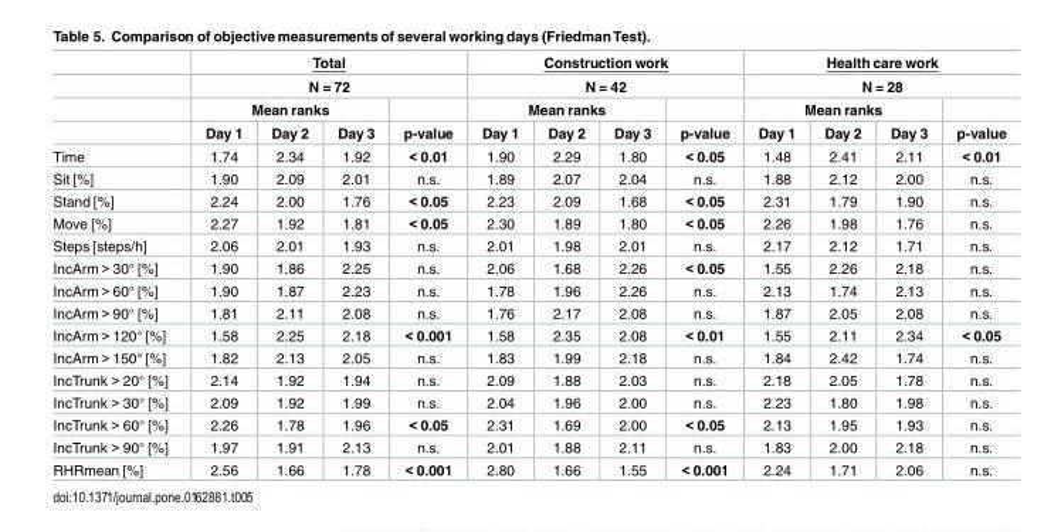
<table><thead><tr><td rowspan="4"></td><td rowspan="2" colspan="4">Total N = 72</td><td rowspan="2" colspan="4">Construction work N = 42</td><td rowspan="2" colspan="4">Health care work N = 28</td></tr><tr></tr><tr><td colspan="3">Mean ranks</td><td rowspan="2">p-value</td><td colspan="3">Mean ranks</td><td rowspan="2">p-value</td><td colspan="3">Mean ranks</td><td rowspan="2">p-value</td></tr><tr><td>Day 1</td><td>Day 2</td><td>Day 3</td><td>Day 1</td><td>Day 2</td><td>Day 3</td><td>Day 1</td><td>Day 2</td><td>Day 3</td></tr></thead><tbody><tr><td>Time</td><td>1.74</td><td>2.34</td><td>1.92</td><td>&lt; 0.01</td><td>1.90</td><td>2.29</td><td>1.80</td><td>&lt; 0.05</td><td>1.48</td><td>2.41</td><td>2.11</td><td>&lt; 0.01</td></tr><tr><td>Sit [%]</td><td>1.90</td><td>2.09</td><td>2.01</td><td>n.s.</td><td>1.89</td><td>2.07</td><td>2.04</td><td>n.s.</td><td>1.88</td><td>2.12</td><td>2.00</td><td>n.s.</td></tr><tr><td>Stand [%]</td><td>2.24</td><td>2.00</td><td>1.76</td><td>&lt; 0.05</td><td>2.23</td><td>2.09</td><td>1.68</td><td>&lt; 0.05</td><td>2.31</td><td>1.79</td><td>1.90</td><td>n.s.</td></tr><tr><td>Move [%]</td><td>2.27</td><td>1.92</td><td>1.81</td><td>&lt; 0.05</td><td>2.30</td><td>1.89</td><td>1.80</td><td>&lt; 0.05</td><td>2.26</td><td>1.98</td><td>1.76</td><td>n.s.</td></tr><tr><td>Steps [steps/h]</td><td>2.06</td><td>2.01</td><td>1.93</td><td>n.s.</td><td>2.01</td><td>1.98</td><td>2.01</td><td>n.s.</td><td>2.17</td><td>2.12</td><td>1.71</td><td>n.s.</td></tr><tr><td>IncArm &gt; 30° [%]</td><td>1.90</td><td>1.86</td><td>2.25</td><td>n.s.</td><td>2.06</td><td>1.68</td><td>2.26</td><td>&lt; 0.05</td><td>1.55</td><td>2.26</td><td>2.18</td><td>n.s.</td></tr><tr><td>IncArm &gt; 60° [%]</td><td>1.90</td><td>1.87</td><td>2.23</td><td>n.s.</td><td>1.78</td><td>1.96</td><td>2.26</td><td>n.s.</td><td>2.13</td><td>1.74</td><td>2.13</td><td>n.s.</td></tr><tr><td>IncArm &gt; 90° [%]</td><td>1.81</td><td>2.11</td><td>2.08</td><td>n.s.</td><td>1.76</td><td>2.17</td><td>2.08</td><td>n.s.</td><td>1.87</td><td>2.05</td><td>2.08</td><td>n.s.</td></tr><tr><td>IncArm &gt; 120° [%]</td><td>1.58</td><td>2.25</td><td>2.18</td><td>&lt; 0.001</td><td>1.58</td><td>2.35</td><td>2.08</td><td>&lt; 0.01</td><td>1.55</td><td>2.11</td><td>2.34</td><td>&lt; 0.05</td></tr><tr><td>IncArm &gt; 150° [%]</td><td>1.82</td><td>2.13</td><td>2.05</td><td>n.s.</td><td>1.83</td><td>1.99</td><td>2.18</td><td>n.s.</td><td>1.84</td><td>2.42</td><td>1.74</td><td>n.s.</td></tr><tr><td>IncTrunk &gt; 20° [%]</td><td>2.14</td><td>1.92</td><td>1.94</td><td>n.s.</td><td>2.09</td><td>1.88</td><td>2.03</td><td>n.s.</td><td>2.18</td><td>2.05</td><td>1.78</td><td>n.s.</td></tr><tr><td>IncTrunk &gt; 30° [%]</td><td>2.09</td><td>1.92</td><td>1.99</td><td>n.s.</td><td>2.04</td><td>1.96</td><td>2.00</td><td>n.s.</td><td>2.23</td><td>1.80</td><td>1.98</td><td>n.s.</td></tr><tr><td>IncTrunk &gt; 60° [%]</td><td>2.26</td><td>1.78</td><td>1.96</td><td>&lt; 0.05</td><td>2.31</td><td>1.69</td><td>2.00</td><td>&lt; 0.05</td><td>2.13</td><td>1.95</td><td>1.93</td><td>n.s.</td></tr><tr><td>IncTrunk &gt; 90° [%]</td><td>1.97</td><td>1.91</td><td>2.13</td><td>n.s.</td><td>2.01</td><td>1.88</td><td>2.11</td><td>n.s.</td><td>1.83</td><td>2.00</td><td>2.18</td><td>n.s.</td></tr><tr><td>RHRmean [%]</td><td>2.56</td><td>1.66</td><td>1.78</td><td>&lt; 0.001</td><td>2.80</td><td>1.66</td><td>1.55</td><td>&lt; 0.001</td><td>2.24</td><td>1.71</td><td>2.06</td><td>n.s.</td></tr></tbody></table>